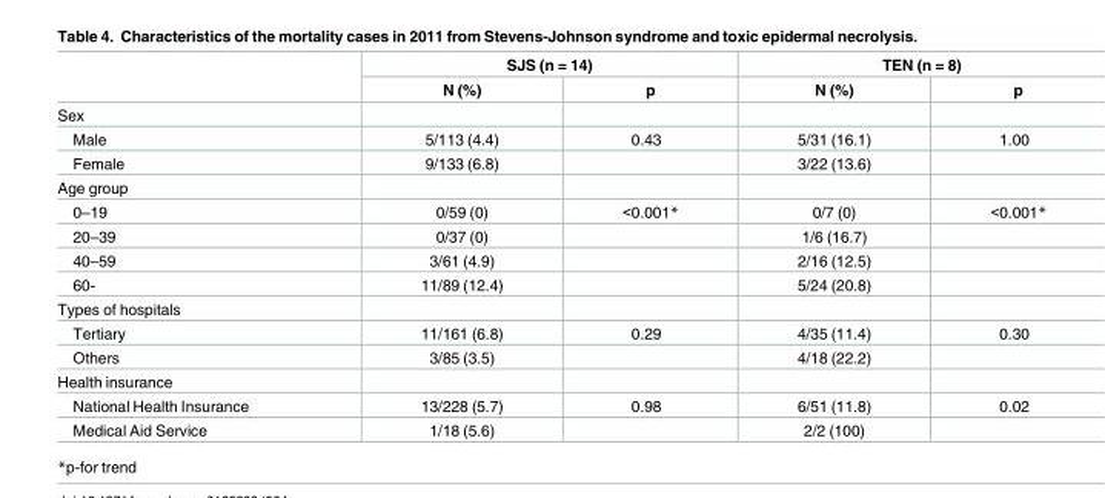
<table><thead><tr><td rowspan="2"></td><td colspan="2">SJS (n = 14)</td><td colspan="2">TEN (n = 8)</td></tr><tr><td>N (%)</td><td>p</td><td>N (%)</td><td>p</td></tr></thead><tbody><tr><td colspan="5">Sex</td></tr><tr><td>Male</td><td>5/113 (4.4)</td><td>0.43</td><td>5/31 (16.1)</td><td>1.00</td></tr><tr><td>Female</td><td>9/133 (6.8)</td><td></td><td>3/22 (13.6)</td><td></td></tr><tr><td colspan="5">Age group</td></tr><tr><td>0–19</td><td>0/59 (0)</td><td>&lt;0.001*</td><td>0/7 (0)</td><td>&lt;0.001*</td></tr><tr><td>20–39</td><td>0/37 (0)</td><td></td><td>1/6 (16.7)</td><td></td></tr><tr><td>40–59</td><td>3/61 (4.9)</td><td></td><td>2/16 (12.5)</td><td></td></tr><tr><td>60-</td><td>11/89 (12.4)</td><td></td><td>5/24 (20.8)</td><td></td></tr><tr><td colspan="5">Types of hospitals</td></tr><tr><td>Tertiary</td><td>11/161 (6.8)</td><td>0.29</td><td>4/35 (11.4)</td><td>0.30</td></tr><tr><td>Others</td><td>3/85 (3.5)</td><td></td><td>4/18 (22.2)</td><td></td></tr><tr><td colspan="5">Health insurance</td></tr><tr><td>National Health Insurance</td><td>13/228 (5.7)</td><td>0.98</td><td>6/51 (11.8)</td><td>0.02</td></tr><tr><td>Medical Aid Service</td><td>1/18 (5.6)</td><td></td><td>2/2 (100)</td><td></td></tr></tbody></table>